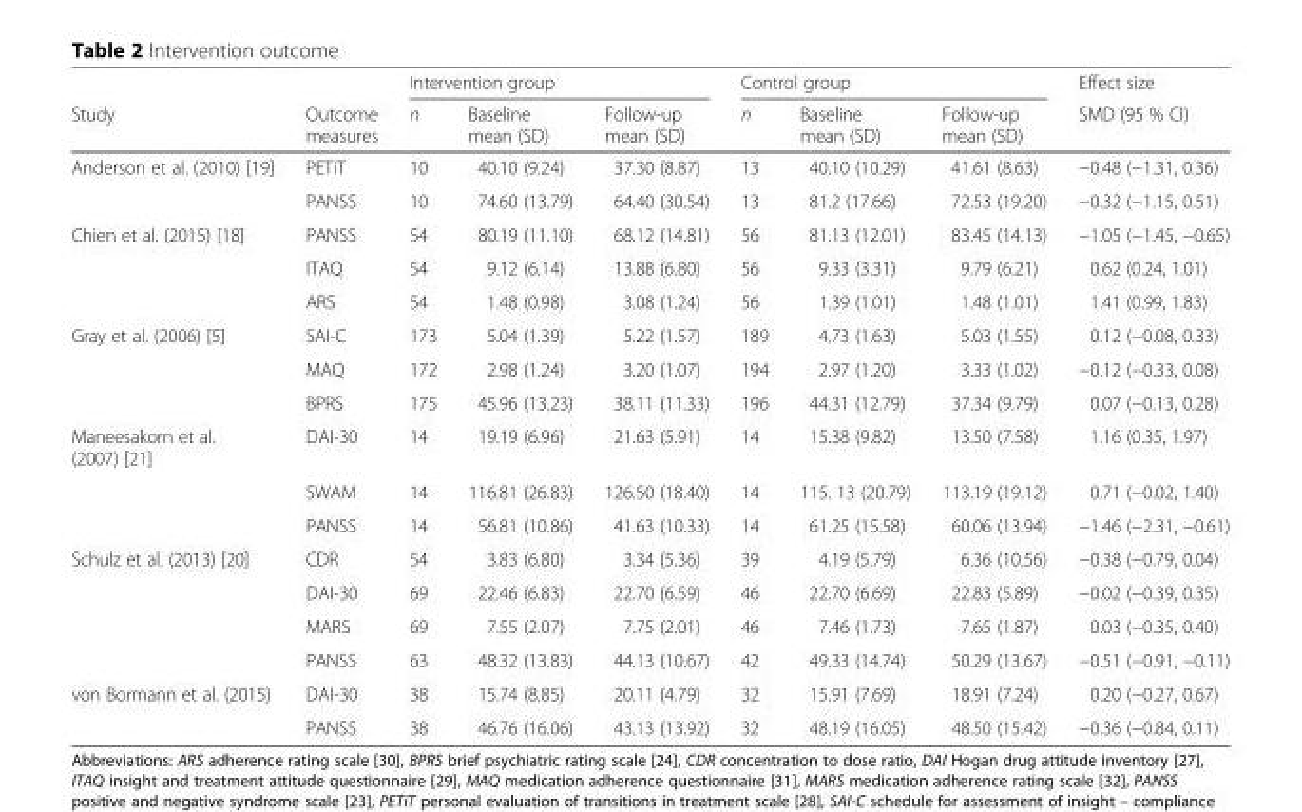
<table><thead><tr><td rowspan="2">Study</td><td rowspan="2">Outcome measures</td><td colspan="3">Intervention group</td><td colspan="3">Control group</td><td rowspan="2">Effect size SMD (95 % CI)</td></tr><tr><td>n</td><td>Baseline mean (SD)</td><td>Follow-up mean (SD)</td><td>n</td><td>Baseline mean (SD)</td><td>Follow-up mean (SD)</td></tr></thead><tbody><tr><td rowspan="2">Anderson et al. (2010) [19]</td><td>PETiT</td><td>10</td><td>40.10 (9.24)</td><td>37.30 (8.87)</td><td>13</td><td>40.10 (10.29)</td><td>41.61 (8.63)</td><td>−0.48 (−1.31, 0.36)</td></tr><tr><td>PANSS</td><td>10</td><td>74.60 (13.79)</td><td>64.40 (30.54)</td><td>13</td><td>81.2 (17.66)</td><td>72.53 (19.20)</td><td>−0.32 (−1.15, 0.51)</td></tr><tr><td rowspan="3">Chien et al. (2015) [18]</td><td>PANSS</td><td>54</td><td>80.19 (11.10)</td><td>68.12 (14.81)</td><td>56</td><td>81.13 (12.01)</td><td>83.45 (14.13)</td><td>−1.05 (−1.45, −0.65)</td></tr><tr><td>ITAQ</td><td>54</td><td>9.12 (6.14)</td><td>13.88 (6.80)</td><td>56</td><td>9.33 (3.31)</td><td>9.79 (6.21)</td><td>0.62 (0.24, 1.01)</td></tr><tr><td>ARS</td><td>54</td><td>1.48 (0.98)</td><td>3.08 (1.24)</td><td>56</td><td>1.39 (1.01)</td><td>1.48 (1.01)</td><td>1.41 (0.99, 1.83)</td></tr><tr><td rowspan="3">Gray et al. (2006) [5]</td><td>SAI-C</td><td>173</td><td>5.04 (1.39)</td><td>5.22 (1.57)</td><td>189</td><td>4.73 (1.63)</td><td>5.03 (1.55)</td><td>0.12 (−0.08, 0.33)</td></tr><tr><td>MAQ</td><td>172</td><td>2.98 (1.24)</td><td>3.20 (1.07)</td><td>194</td><td>2.97 (1.20)</td><td>3.33 (1.02)</td><td>−0.12 (−0.33, 0.08)</td></tr><tr><td>BPRS</td><td>175</td><td>45.96 (13.23)</td><td>38.11 (11.33)</td><td>196</td><td>44.31 (12.79)</td><td>37.34 (9.79)</td><td>0.07 (−0.13, 0.28)</td></tr><tr><td rowspan="3">Maneesakorn et al. (2007) [21]</td><td>DAI-30</td><td>14</td><td>19.19 (6.96)</td><td>21.63 (5.91)</td><td>14</td><td>15.38 (9.82)</td><td>13.50 (7.58)</td><td>1.16 (0.35, 1.97)</td></tr><tr><td>SWAM</td><td>14</td><td>116.81 (26.83)</td><td>126.50 (18.40)</td><td>14</td><td>115. 13 (20.79)</td><td>113.19 (19.12)</td><td>0.71 (−0.02, 1.40)</td></tr><tr><td>PANSS</td><td>14</td><td>56.81 (10.86)</td><td>41.63 (10.33)</td><td>14</td><td>61.25 (15.58)</td><td>60.06 (13.94)</td><td>−1.46 (−2.31, −0.61)</td></tr><tr><td rowspan="4">Schulz et al. (2013) [20]</td><td>CDR</td><td>54</td><td>3.83 (6.80)</td><td>3.34 (5.36)</td><td>39</td><td>4.19 (5.79)</td><td>6.36 (10.56)</td><td>−0.38 (−0.79, 0.04)</td></tr><tr><td>DAI-30</td><td>69</td><td>22.46 (6.83)</td><td>22.70 (6.59)</td><td>46</td><td>22.70 (6.69)</td><td>22.83 (5.89)</td><td>−0.02 (−0.39, 0.35)</td></tr><tr><td>MARS</td><td>69</td><td>7.55 (2.07)</td><td>7.75 (2.01)</td><td>46</td><td>7.46 (1.73)</td><td>7.65 (1.87)</td><td>0.03 (−0.35, 0.40)</td></tr><tr><td>PANSS</td><td>63</td><td>48.32 (13.83)</td><td>44.13 (10.67)</td><td>42</td><td>49.33 (14.74)</td><td>50.29 (13.67)</td><td>−0.51 (−0.91, −0.11)</td></tr><tr><td rowspan="2">von Bormann et al. (2015)</td><td>DAI-30</td><td>38</td><td>15.74 (8.85)</td><td>20.11 (4.79)</td><td>32</td><td>15.91 (7.69)</td><td>18.91 (7.24)</td><td>0.20 (−0.27, 0.67)</td></tr><tr><td>PANSS</td><td>38</td><td>46.76 (16.06)</td><td>43.13 (13.92)</td><td>32</td><td>48.19 (16.05)</td><td>48.50 (15.42)</td><td>−0.36 (−0.84, 0.11)</td></tr></tbody></table>